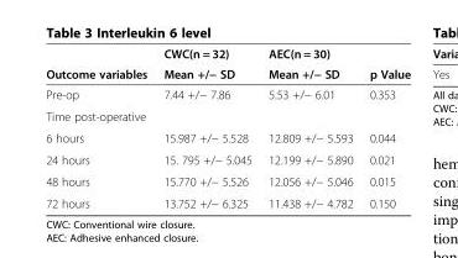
<table><thead><tr><td rowspan="2">Outcome variables</td><td rowspan="2">CWC(n = 32) Mean +/− SD</td><td rowspan="2">AEC(n = 30) Mean +/− SD</td><td rowspan="2">p Value</td></tr><tr></tr></thead><tbody><tr><td>Pre-op</td><td>7.44 +/− 7.86</td><td>5.53 +/− 6.01</td><td>0.353</td></tr><tr><td colspan="4">Time post-operative</td></tr><tr><td>6 hours</td><td>15.987 +/− 5.528</td><td>12.809 +/− 5.593</td><td>0.044</td></tr><tr><td>24 hours</td><td>15. 795 +/− 5.045</td><td>12.199 +/− 5.890</td><td>0.021</td></tr><tr><td>48 hours</td><td>15.770 +/− 5.526</td><td>12.056 +/− 5.046</td><td>0.015</td></tr><tr><td>72 hours</td><td>13.752 +/− 6.325</td><td>11.438 +/− 4.782</td><td>0.150</td></tr></tbody></table>